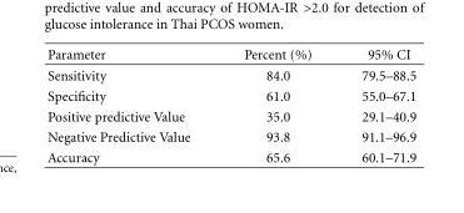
<table><thead><tr><td>Parameter</td><td>Percent (%)</td><td>95% CI</td></tr></thead><tbody><tr><td>Sensitivity</td><td>84.0</td><td>79.5–88.5</td></tr><tr><td>Specificity</td><td>61.0</td><td>55.0–67.1</td></tr><tr><td>Positive predictive Value</td><td>35.0</td><td>29.1–40.9</td></tr><tr><td>Negative Predictive Value</td><td>93.8</td><td>91.1–96.9</td></tr><tr><td>Accuracy</td><td>65.6</td><td>60.1–71.9</td></tr></tbody></table>